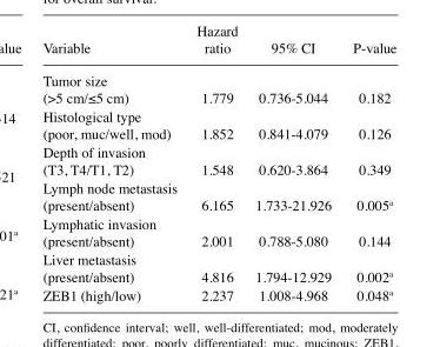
<table><thead><tr><td>Variable</td><td>ratio</td><td>95% CI</td><td>P-value</td></tr></thead><tbody><tr><td>Tumor size (&gt;5 cm/≤5 cm)</td><td>1.779</td><td>0.736-5.044</td><td>0.182</td></tr><tr><td>Histological type (poor, muc/well, mod)</td><td>1.852</td><td>0.841-4.079</td><td>0.126</td></tr><tr><td>Depth of invasion (T3, T4/T1, T2)</td><td>1.548</td><td>0.620-3.864</td><td>0.349</td></tr><tr><td>Lymph node metastasis (present/absent)</td><td>6.165</td><td>1.733-21.926</td><td>0.005<sup>a</sup></td></tr><tr><td>Lymphatic invasion (present/absent)</td><td>2.001</td><td>0.788-5.080</td><td>0.144</td></tr><tr><td>Liver metastasis (present/absent)</td><td>4.816</td><td>1.794-12.929</td><td>0.002<sup>a</sup></td></tr><tr><td>ZEB1 (high/low)</td><td>2.237</td><td>1.008-4.968</td><td>0.048<sup>a</sup></td></tr></tbody></table>